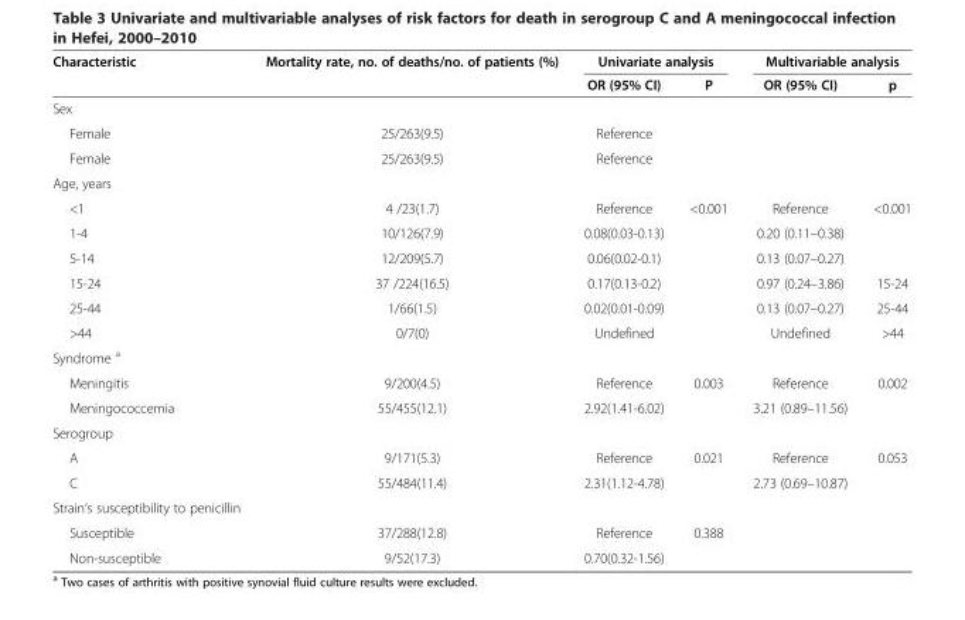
<table><thead><tr><td rowspan="2">Characteristic</td><td rowspan="2">Mortality rate, no. of deaths/no. of patients (%)</td><td colspan="2">Univariate analysis</td><td colspan="2">Multivariable analysis</td></tr><tr><td>OR (95% CI)</td><td>P</td><td>OR (95% CI)</td><td>p</td></tr></thead><tbody><tr><td colspan="6">Sex</td></tr><tr><td>Female</td><td>25/263(9.5)</td><td>Reference</td><td></td><td></td><td></td></tr><tr><td>Female</td><td>25/263(9.5)</td><td>Reference</td><td></td><td></td><td></td></tr><tr><td colspan="6">Age, years</td></tr><tr><td>&lt;1</td><td>4 /23(1.7)</td><td>Reference</td><td>&lt;0.001</td><td>Reference</td><td>&lt;0.001</td></tr><tr><td>1-4</td><td>10/126(7.9)</td><td>0.08(0.03-0.13)</td><td></td><td>0.20 (0.11–0.38)</td><td></td></tr><tr><td>5-14</td><td>12/209(5.7)</td><td>0.06(0.02-0.1)</td><td></td><td>0.13 (0.07–0.27)</td><td></td></tr><tr><td>15-24</td><td>37 /224(16.5)</td><td>0.17(0.13-0.2)</td><td></td><td>0.97 (0.24–3.86)</td><td>15-24</td></tr><tr><td>25-44</td><td>1/66(1.5)</td><td>0.02(0.01-0.09)</td><td></td><td>0.13 (0.07–0.27)</td><td>25-44</td></tr><tr><td>&gt;44</td><td>0/7(0)</td><td>Undefined</td><td></td><td>Undefined</td><td>&gt;44</td></tr><tr><td colspan="6">Syndrome <sup>a</sup></td></tr><tr><td>Meningitis</td><td>9/200(4.5)</td><td>Reference</td><td>0.003</td><td>Reference</td><td>0.002</td></tr><tr><td>Meningococcemia</td><td>55/455(12.1)</td><td>2.92(1.41-6.02)</td><td></td><td>3.21 (0.89–11.56)</td><td></td></tr><tr><td colspan="6">Serogroup</td></tr><tr><td>A</td><td>9/171(5.3)</td><td>Reference</td><td>0.021</td><td>Reference</td><td>0.053</td></tr><tr><td>C</td><td>55/484(11.4)</td><td>2.31(1.12-4.78)</td><td></td><td>2.73 (0.69–10.87)</td><td></td></tr><tr><td colspan="6">Strain’s susceptibility to penicillin</td></tr><tr><td>Susceptible</td><td>37/288(12.8)</td><td>Reference</td><td>0.388</td><td></td><td></td></tr><tr><td>Non-susceptible</td><td>9/52(17.3)</td><td>0.70(0.32-1.56)</td><td></td><td></td><td></td></tr></tbody></table>